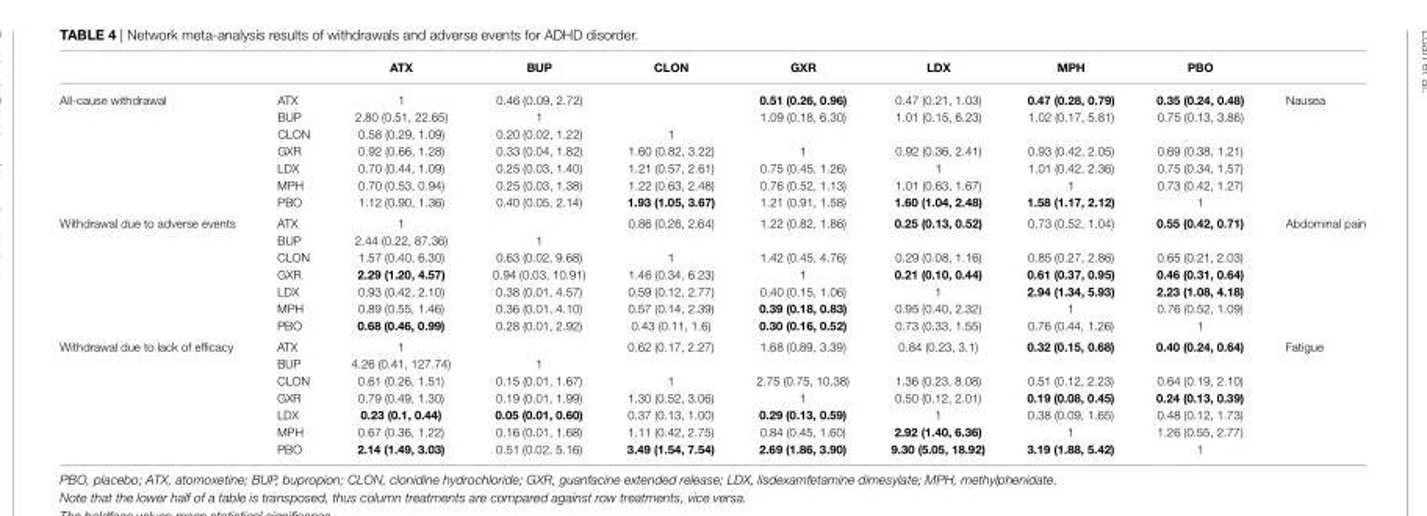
<table><thead><tr><td></td><td></td><td>aTX</td><td>BUP</td><td>clOn</td><td>gXr</td><td>lDX</td><td>MPh</td><td>PBO</td><td></td></tr></thead><tbody><tr><td rowspan="7">All-cause withdrawal</td><td>ATX</td><td>1</td><td>0.46 (0.09, 2.72)</td><td></td><td>0.51 (0.26, 0.96)</td><td>0.47 (0.21, 1.03)</td><td>0.47 (0.28, 0.79)</td><td>0.35 (0.24, 0.48)</td><td rowspan="7">Nausea</td></tr><tr><td>BUP</td><td>2.80 (0.51, 22.65)</td><td>1</td><td></td><td>1.09 (0.18, 6.30)</td><td>1.01 (0.15, 6.23)</td><td>1.02 (0.17, 5.81)</td><td>0.75 (0.13, 3.86)</td></tr><tr><td>CLON</td><td>0.58 (0.29, 1.09)</td><td>0.20 (0.02, 1.22)</td><td>1</td><td></td><td></td><td></td><td></td></tr><tr><td>GXR</td><td>0.92 (0.66, 1.28)</td><td>0.33 (0.04, 1.82)</td><td>1.60 (0.82, 3.22)</td><td>1</td><td>0.92 (0.36, 2.41)</td><td>0.93 (0.42, 2.05)</td><td>0.69 (0.38, 1.21)</td></tr><tr><td>LDX</td><td>0.70 (0.44, 1.09)</td><td>0.25 (0.03, 1.40)</td><td>1.21 (0.57, 2.61)</td><td>0.75 (0.45, 1.26)</td><td>1</td><td>1.01 (0.42, 2.36)</td><td>0.75 (0.34, 1.57)</td></tr><tr><td>MPH</td><td>0.70 (0.53, 0.94)</td><td>0.25 (0.03, 1.38)</td><td>1.22 (0.63, 2.48)</td><td>0.76 (0.52, 1.13)</td><td>1.01 (0.63, 1.67)</td><td>1</td><td>0.73 (0.42, 1.27)</td></tr><tr><td>PBO</td><td>1.12 (0.90, 1.36)</td><td>0.40 (0.05, 2.14)</td><td>1.93 (1.05, 3.67)</td><td>1.21 (0.91, 1.58)</td><td>1.60 (1.04, 2.48)</td><td>1.58 (1.17, 2.12)</td><td>1</td></tr><tr><td rowspan="7">Withdrawal due to adverse events</td><td>ATX</td><td>1</td><td></td><td>0.86 (0.26, 2.64)</td><td>1.22 (0.82, 1.86)</td><td>0.25 (0.13, 0.52)</td><td>0.73 (0.52, 1.04)</td><td>0.55 (0.42, 0.71)</td><td rowspan="7">Abdominal pain</td></tr><tr><td>BUP</td><td>2.44 (0.22, 87.36)</td><td>1</td><td></td><td></td><td></td><td></td><td></td></tr><tr><td>CLON</td><td>1.57 (0.40, 6.30)</td><td>0.63 (0.02, 9.68)</td><td>1</td><td>1.42 (0.45, 4.76)</td><td>0.29 (0.08, 1.16)</td><td>0.85 (0.27, 2.86)</td><td>0.65 (0.21, 2.03)</td></tr><tr><td>GXR</td><td>2.29 (1.20, 4.57)</td><td>0.94 (0.03, 10.91)</td><td>1.46 (0.34, 6.23)</td><td>1</td><td>0.21 (0.10, 0.44)</td><td>0.61 (0.37, 0.95)</td><td>0.46 (0.31, 0.64)</td></tr><tr><td>LDX</td><td>0.93 (0.42, 2.10)</td><td>0.38 (0.01, 4.57)</td><td>0.59 (0.12, 2.77)</td><td>0.40 (0.15, 1.06)</td><td>1</td><td>2.94 (1.34, 5.93)</td><td>2.23 (1.08, 4.18)</td></tr><tr><td>MPH</td><td>0.89 (0.55, 1.46)</td><td>0.36 (0.01, 4.10)</td><td>0.57 (0.14, 2.39)</td><td>0.39 (0.18, 0.83)</td><td>0.95 (0.40, 2.32)</td><td>1</td><td>0.76 (0.52, 1.09)</td></tr><tr><td>PBO</td><td>0.68 (0.46, 0.99)</td><td>0.28 (0.01, 2.92)</td><td>0.43 (0.11, 1.6)</td><td>0.30 (0.16, 0.52)</td><td>0.73 (0.33, 1.55)</td><td>0.76 (0.44, 1.26)</td><td>1</td></tr><tr><td rowspan="7">Withdrawal due to lack of efficacy</td><td>ATX</td><td>1</td><td></td><td>0.62 (0.17, 2.27)</td><td>1.68 (0.89, 3.39)</td><td>0.84 (0.23, 3.1)</td><td>0.32 (0.15, 0.68)</td><td>0.40 (0.24, 0.64)</td><td rowspan="7">Fatigue</td></tr><tr><td>BUP</td><td>4.26 (0.41, 127.74)</td><td>1</td><td></td><td></td><td></td><td></td><td></td></tr><tr><td>CLON</td><td>0.61 (0.26, 1.51)</td><td>0.15 (0.01, 1.67)</td><td>1</td><td>2.75 (0.75, 10.38)</td><td>1.36 (0.23, 8.08)</td><td>0.51 (0.12, 2.23)</td><td>0.64 (0.19, 2.10)</td></tr><tr><td>GXR</td><td>0.79 (0.49, 1.30)</td><td>0.19 (0.01, 1.99)</td><td>1.30 (0.52, 3.06)</td><td>1</td><td>0.50 (0.12, 2.01)</td><td>0.19 (0.08, 0.45)</td><td>0.24 (0.13, 0.39)</td></tr><tr><td>LDX</td><td>0.23 (0.1, 0.44)</td><td>0.05 (0.01, 0.60)</td><td>0.37 (0.13, 1.00)</td><td>0.29 (0.13, 0.59)</td><td>1</td><td>0.38 (0.09, 1.65)</td><td>0.48 (0.12, 1.73)</td></tr><tr><td>MPH</td><td>0.67 (0.36, 1.22)</td><td>0.16 (0.01, 1.68)</td><td>1.11 (0.42, 2.75)</td><td>0.84 (0.45, 1.60)</td><td>2.92 (1.40, 6.36)</td><td>1</td><td>1.26 (0.55, 2.77)</td></tr><tr><td>PBO</td><td>2.14 (1.49, 3.03)</td><td>0.51 (0.02, 5.16)</td><td>3.49 (1.54, 7.54)</td><td>2.69 (1.86, 3.90)</td><td>9.30 (5.05, 18.92)</td><td>3.19 (1.88, 5.42)</td><td>1</td></tr></tbody></table>